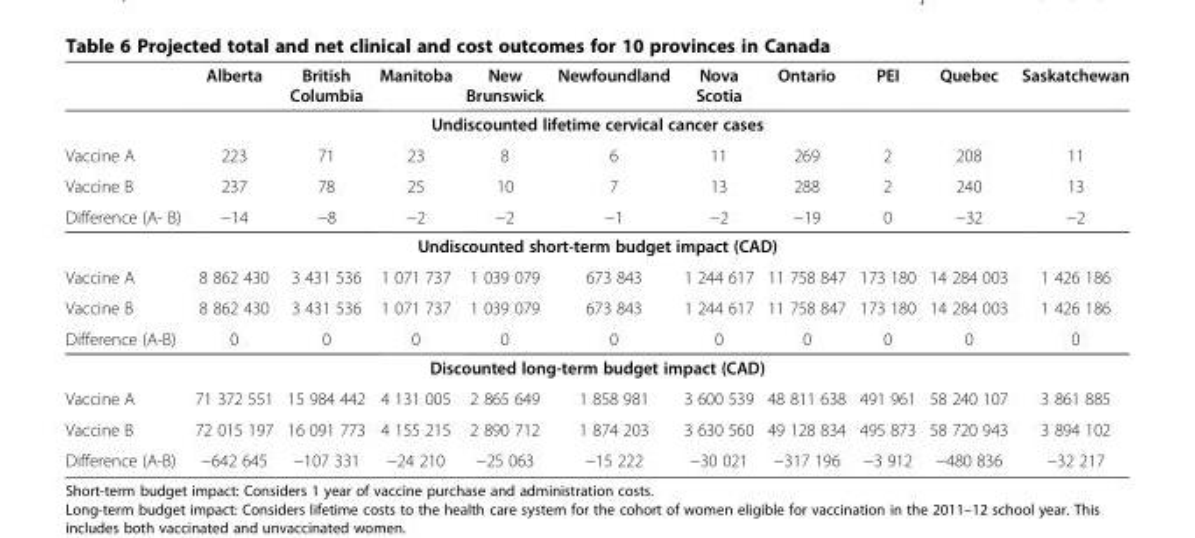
<table><thead><tr><td></td><td>Alberta</td><td>British Columbia</td><td>Manitoba</td><td>New Brunswick</td><td>Newfoundland</td><td>Nova Scotia</td><td>Ontario</td><td>PEI</td><td>Quebec</td><td>Saskatchewan</td></tr></thead><tbody><tr><td colspan="11">Undiscounted lifetime cervical cancer cases</td></tr><tr><td>Vaccine A</td><td>223</td><td>71</td><td>23</td><td>8</td><td>6</td><td>11</td><td>269</td><td>2</td><td>208</td><td>11</td></tr><tr><td>Vaccine B</td><td>237</td><td>78</td><td>25</td><td>10</td><td>7</td><td>13</td><td>288</td><td>2</td><td>240</td><td>13</td></tr><tr><td>Difference (A- B)</td><td>−14</td><td>−8</td><td>−2</td><td>−2</td><td>−1</td><td>−2</td><td>−19</td><td>0</td><td>−32</td><td>−2</td></tr><tr><td colspan="11">Undiscounted short-term budget impact (CAD)</td></tr><tr><td>Vaccine A</td><td>8 862 430</td><td>3 431 536</td><td>1 071 737</td><td>1 039 079</td><td>673 843</td><td>1 244 617</td><td>11 758 847</td><td>173 180</td><td>14 284 003</td><td>1 426 186</td></tr><tr><td>Vaccine B</td><td>8 862 430</td><td>3 431 536</td><td>1 071 737</td><td>1 039 079</td><td>673 843</td><td>1 244 617</td><td>11 758 847</td><td>173 180</td><td>14 284 003</td><td>1 426 186</td></tr><tr><td>Difference (A-B)</td><td>0</td><td>0</td><td>0</td><td>0</td><td>0</td><td>0</td><td>0</td><td>0</td><td>0</td><td>0</td></tr><tr><td colspan="11">Discounted long-term budget impact (CAD)</td></tr><tr><td>Vaccine A</td><td>71 372 551</td><td>15 984 442</td><td>4 131 005</td><td>2 865 649</td><td>1 858 981</td><td>3 600 539</td><td>48 811 638</td><td>491 961</td><td>58 240 107</td><td>3 861 885</td></tr><tr><td>Vaccine B</td><td>72 015 197</td><td>16 091 773</td><td>4 155 215</td><td>2 890 712</td><td>1 874 203</td><td>3 630 560</td><td>49 128 834</td><td>495 873</td><td>58 720 943</td><td>3 894 102</td></tr><tr><td>Difference (A-B)</td><td>−642 645</td><td>−107 331</td><td>−24 210</td><td>−25 063</td><td>−15 222</td><td>−30 021</td><td>−317 196</td><td>−3 912</td><td>−480 836</td><td>−32 217</td></tr></tbody></table>